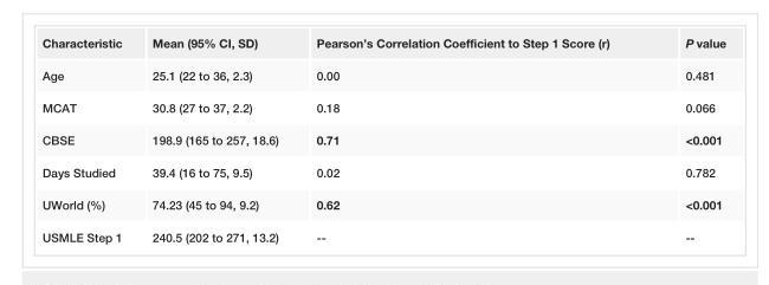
<table><tbody><tr><td>Characteristic</td><td>Mean (95% CI, SD)</td><td>Pearson’s Correlation Coefficient to Step 1 Score (r)</td><td>P value</td></tr><tr><td>Age</td><td>25.1 (22 to 36, 2.3)</td><td>0.00</td><td>0.481</td></tr><tr><td>MCAT</td><td>30.8 (27 to 37, 2.2)</td><td>0.18</td><td>0.066</td></tr><tr><td>CBSE</td><td>198.9 (165 to 257, 18.6)</td><td>0.71</td><td>&lt;0.001</td></tr><tr><td>Days Studied</td><td>39.4 (16 to 75, 9.5)</td><td>0.02</td><td>0.782</td></tr><tr><td>UWorld (%)</td><td>74.23 (45 to 94, 9.2)</td><td>0.62</td><td>&lt;0.001</td></tr><tr><td>USMLE Step 1</td><td>240.5 (202 to 271, 13.2)</td><td>--</td><td>--</td></tr></tbody></table>